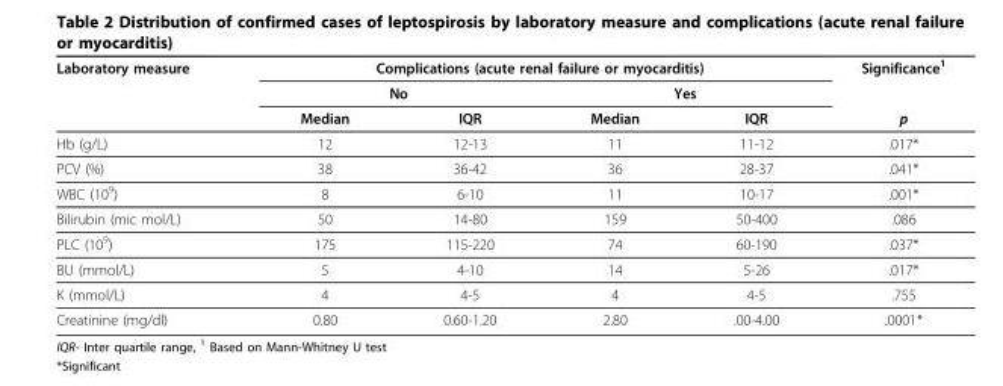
<table><thead><tr><td rowspan="3">Laboratory measure</td><td colspan="4">Complications (acute renal failure or myocarditis)</td><td rowspan="3">Significance<sup>1</sup> p</td></tr><tr><td colspan="2">No</td><td colspan="2">Yes</td></tr><tr><td>Median</td><td>IQR</td><td>Median</td><td>IQR</td></tr></thead><tbody><tr><td>Hb (g/L)</td><td>12</td><td>12-13</td><td>11</td><td>11-12</td><td>.017*</td></tr><tr><td>PCV (%)</td><td>38</td><td>36-42</td><td>36</td><td>28-37</td><td>.041*</td></tr><tr><td>WBC (10<sup>9</sup>)</td><td>8</td><td>6-10</td><td>11</td><td>10-17</td><td>.001*</td></tr><tr><td>Bilirubin (mic mol/L)</td><td>50</td><td>14-80</td><td>159</td><td>50-400</td><td>.086</td></tr><tr><td>PLC (10<sup>9</sup>)</td><td>175</td><td>115-220</td><td>74</td><td>60-190</td><td>.037*</td></tr><tr><td>BU (mmol/L)</td><td>5</td><td>4-10</td><td>14</td><td>5-26</td><td>.017*</td></tr><tr><td>K (mmol/L)</td><td>4</td><td>4-5</td><td>4</td><td>4-5</td><td>.755</td></tr><tr><td>Creatinine (mg/dl)</td><td>0.80</td><td>0.60-1.20</td><td>2.80</td><td>.00-4.00</td><td>.0001*</td></tr></tbody></table>